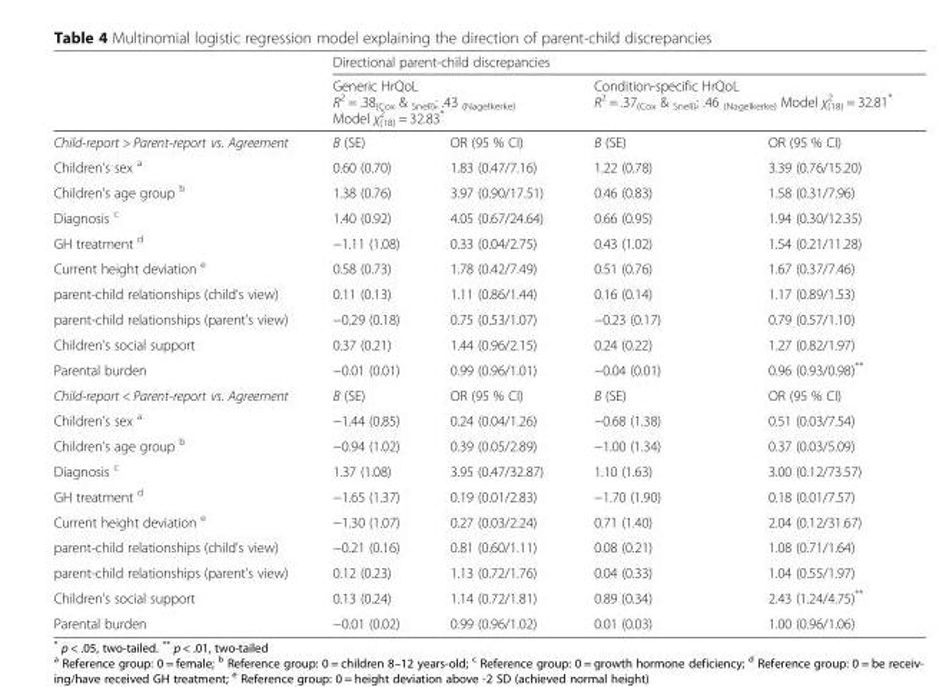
<table><thead><tr><td rowspan="3">Child-report &gt; Parent-report vs. Agreement</td><td colspan="4">Directional parent-child discrepancies</td></tr><tr><td colspan="2">Generic HrQoL R<sup>2</sup> = .38<sub>(Cox</sub> &amp; <sub>Snell)</sub>; .43 <sub>(Nagelkerke)</sub> Model χ<sup>2</sup> <sub>(18)</sub> = 32.83*</td><td colspan="2">Condition-specific HrQoL R<sup>2</sup> = .37<sub>(Cox</sub> &amp; <sub>Snell)</sub>; .46 <sub>(Nagelkerke)</sub> Model χ<sup>2</sup> <sub>(18)</sub> = 32.81*</td></tr><tr><td>B (SE)</td><td>OR (95 % CI)</td><td>B (SE)</td><td>OR (95 % CI)</td></tr></thead><tbody><tr><td>Children’s sex <sup>a</sup></td><td>0.60 (0.70)</td><td>1.83 (0.47/7.16)</td><td>1.22 (0.78)</td><td>3.39 (0.76/15.20)</td></tr><tr><td>Children’s age group <sup>b</sup></td><td>1.38 (0.76)</td><td>3.97 (0.90/17.51)</td><td>0.46 (0.83)</td><td>1.58 (0.31/7.96)</td></tr><tr><td>Diagnosis <sup>c</sup></td><td>1.40 (0.92)</td><td>4.05 (0.67/24.64)</td><td>0.66 (0.95)</td><td>1.94 (0.30/12.35)</td></tr><tr><td>GH treatment <sup>d</sup></td><td>−1.11 (1.08)</td><td>0.33 (0.04/2.75)</td><td>0.43 (1.02)</td><td>1.54 (0.21/11.28)</td></tr><tr><td>Current height deviation <sup>e</sup></td><td>0.58 (0.73)</td><td>1.78 (0.42/7.49)</td><td>0.51 (0.76)</td><td>1.67 (0.37/7.46)</td></tr><tr><td>parent-child relationships (child’s view)</td><td>0.11 (0.13)</td><td>1.11 (0.86/1.44)</td><td>0.16 (0.14)</td><td>1.17 (0.89/1.53)</td></tr><tr><td>parent-child relationships (parent’s view)</td><td>−0.29 (0.18)</td><td>0.75 (0.53/1.07)</td><td>−0.23 (0.17)</td><td>0.79 (0.57/1.10)</td></tr><tr><td>Children’s social support</td><td>0.37 (0.21)</td><td>1.44 (0.96/2.15)</td><td>0.24 (0.22)</td><td>1.27 (0.82/1.97)</td></tr><tr><td>Parental burden</td><td>−0.01 (0.01)</td><td>0.99 (0.96/1.01)</td><td>−0.04 (0.01)</td><td>0.96 (0.93/0.98)**</td></tr><tr><td>Child-report &lt; Parent-report vs. Agreement</td><td>B (SE)</td><td>OR (95 % CI)</td><td>B (SE)</td><td>OR (95 % CI)</td></tr><tr><td>Children’s sex <sup>a</sup></td><td>−1.44 (0.85)</td><td>0.24 (0.04/1.26)</td><td>−0.68 (1.38)</td><td>0.51 (0.03/7.54)</td></tr><tr><td>Children’s age group <sup>b</sup></td><td>−0.94 (1.02)</td><td>0.39 (0.05/2.89)</td><td>−1.00 (1.34)</td><td>0.37 (0.03/5.09)</td></tr><tr><td>Diagnosis <sup>c</sup></td><td>1.37 (1.08)</td><td>3.95 (0.47/32.87)</td><td>1.10 (1.63)</td><td>3.00 (0.12/73.57)</td></tr><tr><td>GH treatment <sup>d</sup></td><td>−1.65 (1.37)</td><td>0.19 (0.01/2.83)</td><td>−1.70 (1.90)</td><td>0.18 (0.01/7.57)</td></tr><tr><td>Current height deviation <sup>e</sup></td><td>−1.30 (1.07)</td><td>0.27 (0.03/2.24)</td><td>0.71 (1.40)</td><td>2.04 (0.12/31.67)</td></tr><tr><td>parent-child relationships (child’s view)</td><td>−0.21 (0.16)</td><td>0.81 (0.60/1.11)</td><td>0.08 (0.21)</td><td>1.08 (0.71/1.64)</td></tr><tr><td>parent-child relationships (parent’s view)</td><td>0.12 (0.23)</td><td>1.13 (0.72/1.76)</td><td>0.04 (0.33)</td><td>1.04 (0.55/1.97)</td></tr><tr><td>Children’s social support</td><td>0.13 (0.24)</td><td>1.14 (0.72/1.81)</td><td>0.89 (0.34)</td><td>2.43 (1.24/4.75)**</td></tr><tr><td>Parental burden</td><td>−0.01 (0.02)</td><td>0.99 (0.96/1.02)</td><td>0.01 (0.03)</td><td>1.00 (0.96/1.06)</td></tr></tbody></table>